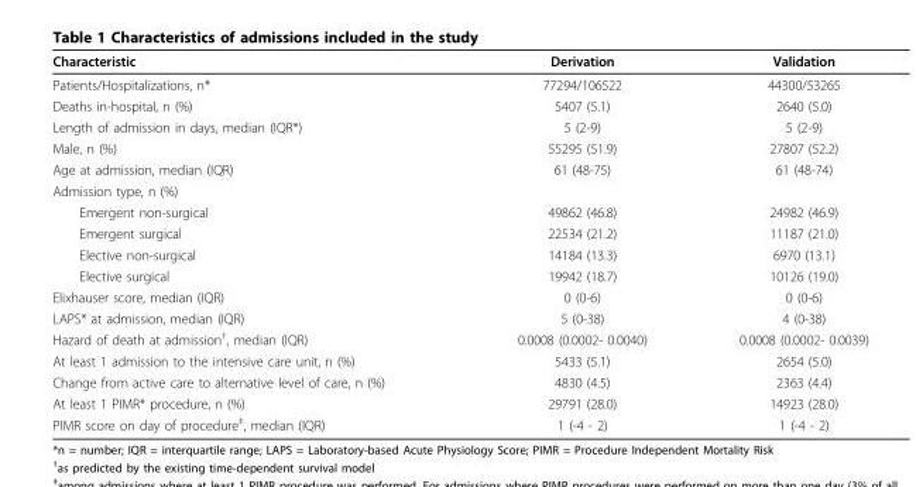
<table><thead><tr><td>Characteristic</td><td>Derivation</td><td>Validation</td></tr></thead><tbody><tr><td>Patients/Hospitalizations, n*</td><td>77294/106522</td><td>44300/53265</td></tr><tr><td>Deaths in-hospital, n (%)</td><td>5407 (5.1)</td><td>2640 (5.0)</td></tr><tr><td>Length of admission in days, median (IQR*)</td><td>5 (2-9)</td><td>5 (2-9)</td></tr><tr><td>Male, n (%)</td><td>55295 (51.9)</td><td>27807 (52.2)</td></tr><tr><td>Age at admission, median (IQR)</td><td>61 (48-75)</td><td>61 (48-74)</td></tr><tr><td colspan="3">Admission type, n (%)</td></tr><tr><td>Emergent non-surgical</td><td>49862 (46.8)</td><td>24982 (46.9)</td></tr><tr><td>Emergent surgical</td><td>22534 (21.2)</td><td>11187 (21.0)</td></tr><tr><td>Elective non-surgical</td><td>14184 (13.3)</td><td>6970 (13.1)</td></tr><tr><td>Elective surgical</td><td>19942 (18.7)</td><td>10126 (19.0)</td></tr><tr><td>Elixhauser score, median (IQR)</td><td>0 (0-6)</td><td>0 (0-6)</td></tr><tr><td>LAPS* at admission, median (IQR)</td><td>5 (0-38)</td><td>4 (0-38)</td></tr><tr><td>Hazard of death at admission<sup>†</sup>, median (IQR)</td><td>0.0008 (0.0002- 0.0040)</td><td>0.0008 (0.0002- 0.0039)</td></tr><tr><td>At least 1 admission to the intensive care unit, n (%)</td><td>5433 (5.1)</td><td>2654 (5.0)</td></tr><tr><td>Change from active care to alternative level of care, n (%)</td><td>4830 (4.5)</td><td>2363 (4.4)</td></tr><tr><td>At least 1 PIMR* procedure, n (%)</td><td>29791 (28.0)</td><td>14923 (28.0)</td></tr><tr><td>PIMR score on day of procedure<sup>‡</sup>, median (IQR)</td><td>1 (-4 - 2)</td><td>1 (-4 - 2)</td></tr></tbody></table>